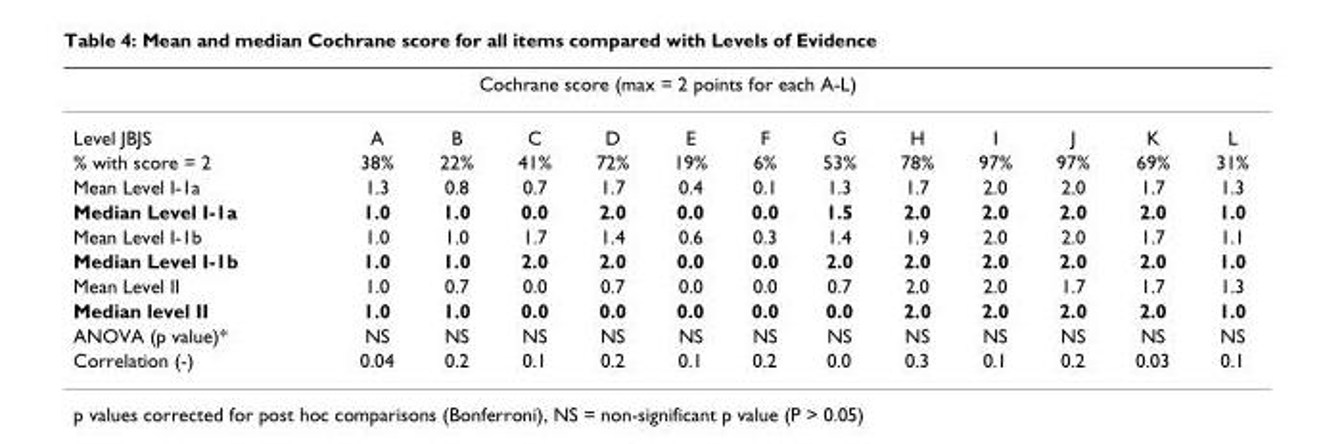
<table><thead><tr><td colspan="13">Cochrane score (max = 2 points for each A-L)</td></tr><tr><td>Level JBJS</td><td>A</td><td>B</td><td>C</td><td>D</td><td>E</td><td>F</td><td>G</td><td>H</td><td>I</td><td>J</td><td>K</td><td>L</td></tr></thead><tbody><tr><td>% with score = 2</td><td>38%</td><td>22%</td><td>41%</td><td>72%</td><td>19%</td><td>6%</td><td>53%</td><td>78%</td><td>97%</td><td>97%</td><td>69%</td><td>31%</td></tr><tr><td>Mean Level I-1a</td><td>1.3</td><td>0.8</td><td>0.7</td><td>1.7</td><td>0.4</td><td>0.1</td><td>1.3</td><td>1.7</td><td>2.0</td><td>2.0</td><td>1.7</td><td>1.3</td></tr><tr><td>Median Level I-1a</td><td>1.0</td><td>1.0</td><td>0.0</td><td>2.0</td><td>0.0</td><td>0.0</td><td>1.5</td><td>2.0</td><td>2.0</td><td>2.0</td><td>2.0</td><td>1.0</td></tr><tr><td>Mean Level I-1b</td><td>1.0</td><td>1.0</td><td>1.7</td><td>1.4</td><td>0.6</td><td>0.3</td><td>1.4</td><td>1.9</td><td>2.0</td><td>2.0</td><td>1.7</td><td>1.1</td></tr><tr><td>Median Level I-1b</td><td>1.0</td><td>1.0</td><td>2.0</td><td>2.0</td><td>0.0</td><td>0.0</td><td>2.0</td><td>2.0</td><td>2.0</td><td>2.0</td><td>2.0</td><td>1.0</td></tr><tr><td>Mean Level II</td><td>1.0</td><td>0.7</td><td>0.0</td><td>0.7</td><td>0.0</td><td>0.0</td><td>0.7</td><td>2.0</td><td>2.0</td><td>1.7</td><td>1.7</td><td>1.3</td></tr><tr><td>Median level II</td><td>1.0</td><td>1.0</td><td>0.0</td><td>0.0</td><td>0.0</td><td>0.0</td><td>0.0</td><td>2.0</td><td>2.0</td><td>2.0</td><td>2.0</td><td>1.0</td></tr><tr><td>ANOVA (p value)*</td><td>NS</td><td>NS</td><td>NS</td><td>NS</td><td>NS</td><td>NS</td><td>NS</td><td>NS</td><td>NS</td><td>NS</td><td>NS</td><td>NS</td></tr><tr><td>Correlation (-)</td><td>0.04</td><td>0.2</td><td>0.1</td><td>0.2</td><td>0.1</td><td>0.2</td><td>0.0</td><td>0.3</td><td>0.1</td><td>0.2</td><td>0.03</td><td>0.1</td></tr></tbody></table>